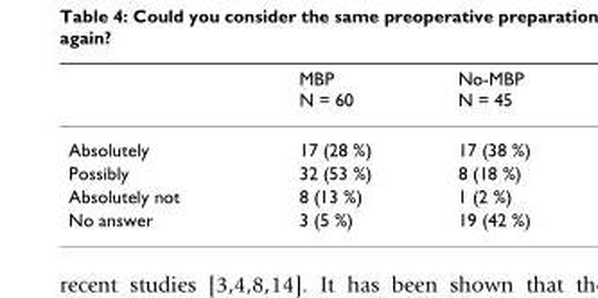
<table><thead><tr><td></td><td>MBP N = 60</td><td>No-MBP N = 45</td></tr></thead><tbody><tr><td>Absolutely</td><td>17 (28 %)</td><td>17 (38 %)</td></tr><tr><td>Possibly</td><td>32 (53 %)</td><td>8 (18 %)</td></tr><tr><td>Absolutely not</td><td>8 (13 %)</td><td>1 (2 %)</td></tr><tr><td>No answer</td><td>3 (5 %)</td><td>19 (42 %)</td></tr></tbody></table>